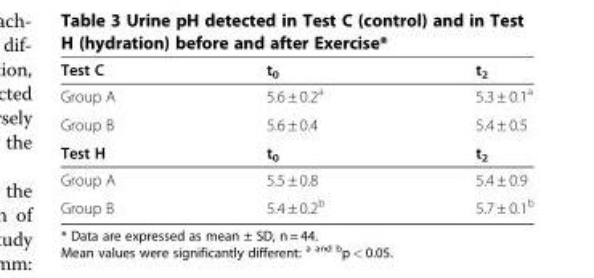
<table><thead><tr><td>Test C</td><td>t<sub>0</sub></td><td>t<sub>2</sub></td></tr></thead><tbody><tr><td>Group A</td><td>5.6 ± 0.2<sup>a</sup></td><td>5.3 ± 0.1<sup>a</sup></td></tr><tr><td>Group B</td><td>5.6 ± 0.4</td><td>5.4 ± 0.5</td></tr><tr><td>Test H</td><td>t<sub>0</sub></td><td>t<sub>2</sub></td></tr><tr><td>Group A</td><td>5.5 ± 0.8</td><td>5.4 ± 0.9</td></tr><tr><td>Group B</td><td>5.4 ± 0.2<sup>b</sup></td><td>5.7 ± 0.1<sup>b</sup></td></tr></tbody></table>